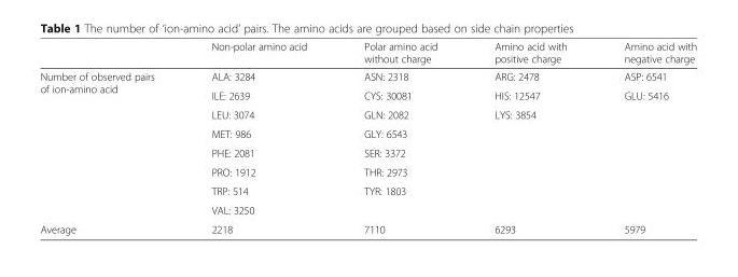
<table><thead><tr><td></td><td>Non-polar amino acid</td><td>Polar amino acid without charge</td><td>Amino acid with positive charge</td><td>Amino acid with negative charge</td></tr></thead><tbody><tr><td rowspan="8">Number of observed pairs of ion-amino acid</td><td>ALA: 3284</td><td>ASN: 2318</td><td>ARG: 2478</td><td>ASP: 6541</td></tr><tr><td>ILE: 2639</td><td>CYS: 30081</td><td>HIS: 12547</td><td>GLU: 5416</td></tr><tr><td>LEU: 3074</td><td>GLN: 2082</td><td>LYS: 3854</td><td rowspan="6"></td></tr><tr><td>MET: 986</td><td>GLY: 6543</td><td rowspan="5"></td></tr><tr><td>PHE: 2081</td><td>SER: 3372</td></tr><tr><td>PRO: 1912</td><td>THR: 2973</td></tr><tr><td>TRP: 514</td><td>TYR: 1803</td></tr><tr><td>VAL: 3250</td><td></td></tr><tr><td>Average</td><td>2218</td><td>7110</td><td>6293</td><td>5979</td></tr></tbody></table>